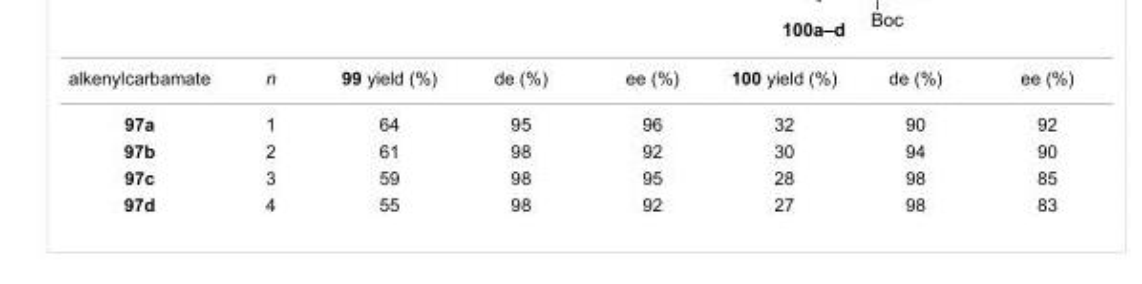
<table><tbody><tr><td>alkenylcarbamate</td><td>n</td><td>99 yield (%)</td><td>de (%)</td><td>ee (%)</td><td>100 yield (%)</td><td>de (%)</td><td>ee (%)</td></tr><tr><td>97a</td><td>1</td><td>64</td><td>95</td><td>96</td><td>32</td><td>90</td><td>92</td></tr><tr><td>97b</td><td>2</td><td>61</td><td>98</td><td>92</td><td>30</td><td>94</td><td>90</td></tr><tr><td>97c</td><td>3</td><td>59</td><td>98</td><td>95</td><td>28</td><td>98</td><td>85</td></tr><tr><td>97d</td><td>4</td><td>55</td><td>98</td><td>92</td><td>27</td><td>98</td><td>83</td></tr></tbody></table>